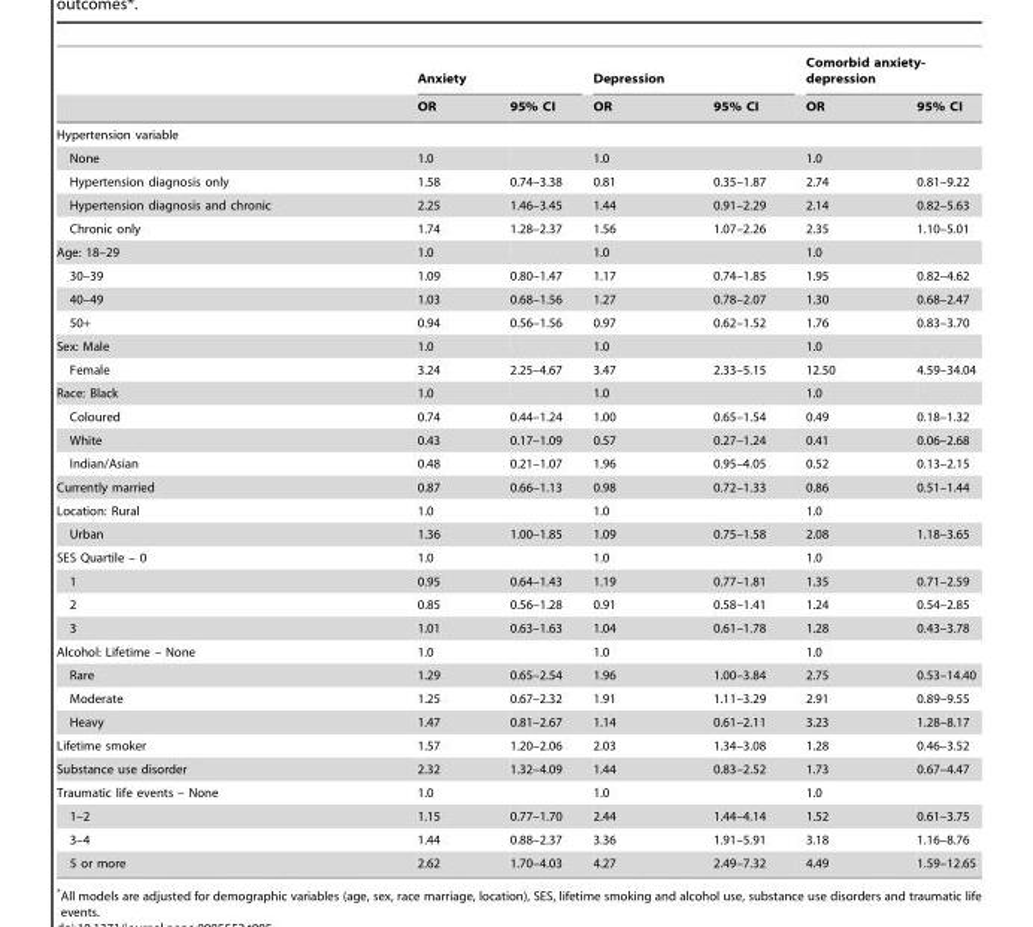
<table><thead><tr><td rowspan="2"></td><td colspan="2">Anxiety</td><td colspan="2">Depression</td><td colspan="2">Comorbid anxiety- depression</td></tr><tr><td>OR</td><td>95% CI</td><td>OR</td><td>95% CI</td><td>OR</td><td>95% CI</td></tr></thead><tbody><tr><td colspan="7">Hypertension variable</td></tr><tr><td>None</td><td>1.0</td><td></td><td>1.0</td><td></td><td>1.0</td><td></td></tr><tr><td>Hypertension diagnosis only</td><td>1.58</td><td>0.74–3.38</td><td>0.81</td><td>0.35–1.87</td><td>2.74</td><td>0.81–9.22</td></tr><tr><td>Hypertension diagnosis and chronic</td><td>2.25</td><td>1.46–3.45</td><td>1.44</td><td>0.91–2.29</td><td>2.14</td><td>0.82–5.63</td></tr><tr><td>Chronic only</td><td>1.74</td><td>1.28–2.37</td><td>1.56</td><td>1.07–2.26</td><td>2.35</td><td>1.10–5.01</td></tr><tr><td>Age: 18–29</td><td>1.0</td><td></td><td>1.0</td><td></td><td>1.0</td><td></td></tr><tr><td>30–39</td><td>1.09</td><td>0.80–1.47</td><td>1.17</td><td>0.74–1.85</td><td>1.95</td><td>0.82–4.62</td></tr><tr><td>40–49</td><td>1.03</td><td>0.68–1.56</td><td>1.27</td><td>0.78–2.07</td><td>1.30</td><td>0.68–2.47</td></tr><tr><td>50+</td><td>0.94</td><td>0.56–1.56</td><td>0.97</td><td>0.62–1.52</td><td>1.76</td><td>0.83–3.70</td></tr><tr><td>Sex: Male</td><td>1.0</td><td></td><td>1.0</td><td></td><td>1.0</td><td></td></tr><tr><td>Female</td><td>3.24</td><td>2.25–4.67</td><td>3.47</td><td>2.33–5.15</td><td>12.50</td><td>4.59–34.04</td></tr><tr><td>Race: Black</td><td>1.0</td><td></td><td>1.0</td><td></td><td>1.0</td><td></td></tr><tr><td>Coloured</td><td>0.74</td><td>0.44–1.24</td><td>1.00</td><td>0.65–1.54</td><td>0.49</td><td>0.18–1.32</td></tr><tr><td>White</td><td>0.43</td><td>0.17–1.09</td><td>0.57</td><td>0.27–1.24</td><td>0.41</td><td>0.06–2.68</td></tr><tr><td>Indian/Asian</td><td>0.48</td><td>0.21–1.07</td><td>1.96</td><td>0.95–4.05</td><td>0.52</td><td>0.13–2.15</td></tr><tr><td>Currently married</td><td>0.87</td><td>0.66–1.13</td><td>0.98</td><td>0.72–1.33</td><td>0.86</td><td>0.51–1.44</td></tr><tr><td>Location: Rural</td><td>1.0</td><td></td><td>1.0</td><td></td><td>1.0</td><td></td></tr><tr><td>Urban</td><td>1.36</td><td>1.00–1.85</td><td>1.09</td><td>0.75–1.58</td><td>2.08</td><td>1.18–3.65</td></tr><tr><td>SES Quartile – 0</td><td>1.0</td><td></td><td>1.0</td><td></td><td>1.0</td><td></td></tr><tr><td>1</td><td>0.95</td><td>0.64–1.43</td><td>1.19</td><td>0.77–1.81</td><td>1.35</td><td>0.71–2.59</td></tr><tr><td>2</td><td>0.85</td><td>0.56–1.28</td><td>0.91</td><td>0.58–1.41</td><td>1.24</td><td>0.54–2.85</td></tr><tr><td>3</td><td>1.01</td><td>0.63–1.63</td><td>1.04</td><td>0.61–1.78</td><td>1.28</td><td>0.43–3.78</td></tr><tr><td>Alcohol: Lifetime – None</td><td>1.0</td><td></td><td>1.0</td><td></td><td>1.0</td><td></td></tr><tr><td>Rare</td><td>1.29</td><td>0.65–2.54</td><td>1.96</td><td>1.00–3.84</td><td>2.75</td><td>0.53–14.40</td></tr><tr><td>Moderate</td><td>1.25</td><td>0.67–2.32</td><td>1.91</td><td>1.11–3.29</td><td>2.91</td><td>0.89–9.55</td></tr><tr><td>Heavy</td><td>1.47</td><td>0.81–2.67</td><td>1.14</td><td>0.61–2.11</td><td>3.23</td><td>1.28–8.17</td></tr><tr><td>Lifetime smoker</td><td>1.57</td><td>1.20–2.06</td><td>2.03</td><td>1.34–3.08</td><td>1.28</td><td>0.46–3.52</td></tr><tr><td>Substance use disorder</td><td>2.32</td><td>1.32–4.09</td><td>1.44</td><td>0.83–2.52</td><td>1.73</td><td>0.67–4.47</td></tr><tr><td>Traumatic life events – None</td><td>1.0</td><td></td><td>1.0</td><td></td><td>1.0</td><td></td></tr><tr><td>1–2</td><td>1.15</td><td>0.77–1.70</td><td>2.44</td><td>1.44–4.14</td><td>1.52</td><td>0.61–3.75</td></tr><tr><td>3–4</td><td>1.44</td><td>0.88–2.37</td><td>3.36</td><td>1.91–5.91</td><td>3.18</td><td>1.16–8.76</td></tr><tr><td>5 or more</td><td>2.62</td><td>1.70–4.03</td><td>4.27</td><td>2.49–7.32</td><td>4.49</td><td>1.59–12.65</td></tr></tbody></table>